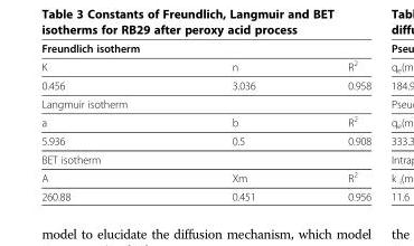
<table><thead><tr><td>Freundlich isotherm</td><td></td><td></td></tr></thead><tbody><tr><td>K</td><td>n</td><td>R<sup>2</sup></td></tr><tr><td>0.456</td><td>3.036</td><td>0.958</td></tr><tr><td colspan="3">Langmuir isotherm</td></tr><tr><td>a</td><td>b</td><td>R<sup>2</sup></td></tr><tr><td>5.936</td><td>0.5</td><td>0.908</td></tr><tr><td colspan="3">BET isotherm</td></tr><tr><td>A</td><td>Xm</td><td>R<sup>2</sup></td></tr><tr><td>260.88</td><td>0.451</td><td>0.956</td></tr></tbody></table>